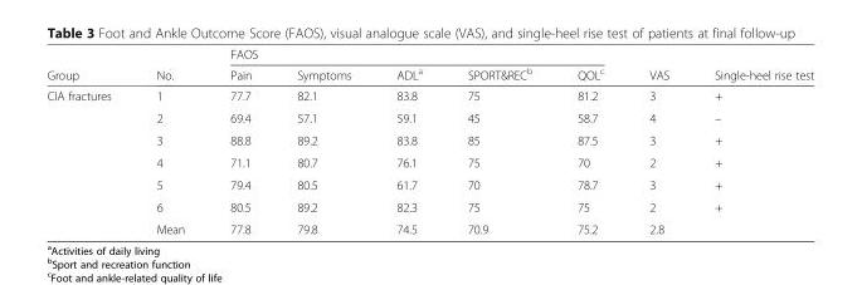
<table><thead><tr><td rowspan="2">Group</td><td rowspan="2">No.</td><td colspan="5">FAOS</td><td rowspan="2">VAS</td><td rowspan="2">Single-heel rise test</td></tr><tr><td>Pain</td><td>Symptoms</td><td>ADL<sup>a</sup></td><td>SPORT&amp;REC<sup>b</sup></td><td>QOL<sup>c</sup></td></tr></thead><tbody><tr><td rowspan="7">CIA fractures</td><td>1</td><td>77.7</td><td>82.1</td><td>83.8</td><td>75</td><td>81.2</td><td>3</td><td>+</td></tr><tr><td>2</td><td>69.4</td><td>57.1</td><td>59.1</td><td>45</td><td>58.7</td><td>4</td><td>–</td></tr><tr><td>3</td><td>88.8</td><td>89.2</td><td>83.8</td><td>85</td><td>87.5</td><td>3</td><td>+</td></tr><tr><td>4</td><td>71.1</td><td>80.7</td><td>76.1</td><td>75</td><td>70</td><td>2</td><td>+</td></tr><tr><td>5</td><td>79.4</td><td>80.5</td><td>61.7</td><td>70</td><td>78.7</td><td>3</td><td>+</td></tr><tr><td>6</td><td>80.5</td><td>89.2</td><td>82.3</td><td>75</td><td>75</td><td>2</td><td>+</td></tr><tr><td>Mean</td><td>77.8</td><td>79.8</td><td>74.5</td><td>70.9</td><td>75.2</td><td>2.8</td><td></td></tr></tbody></table>